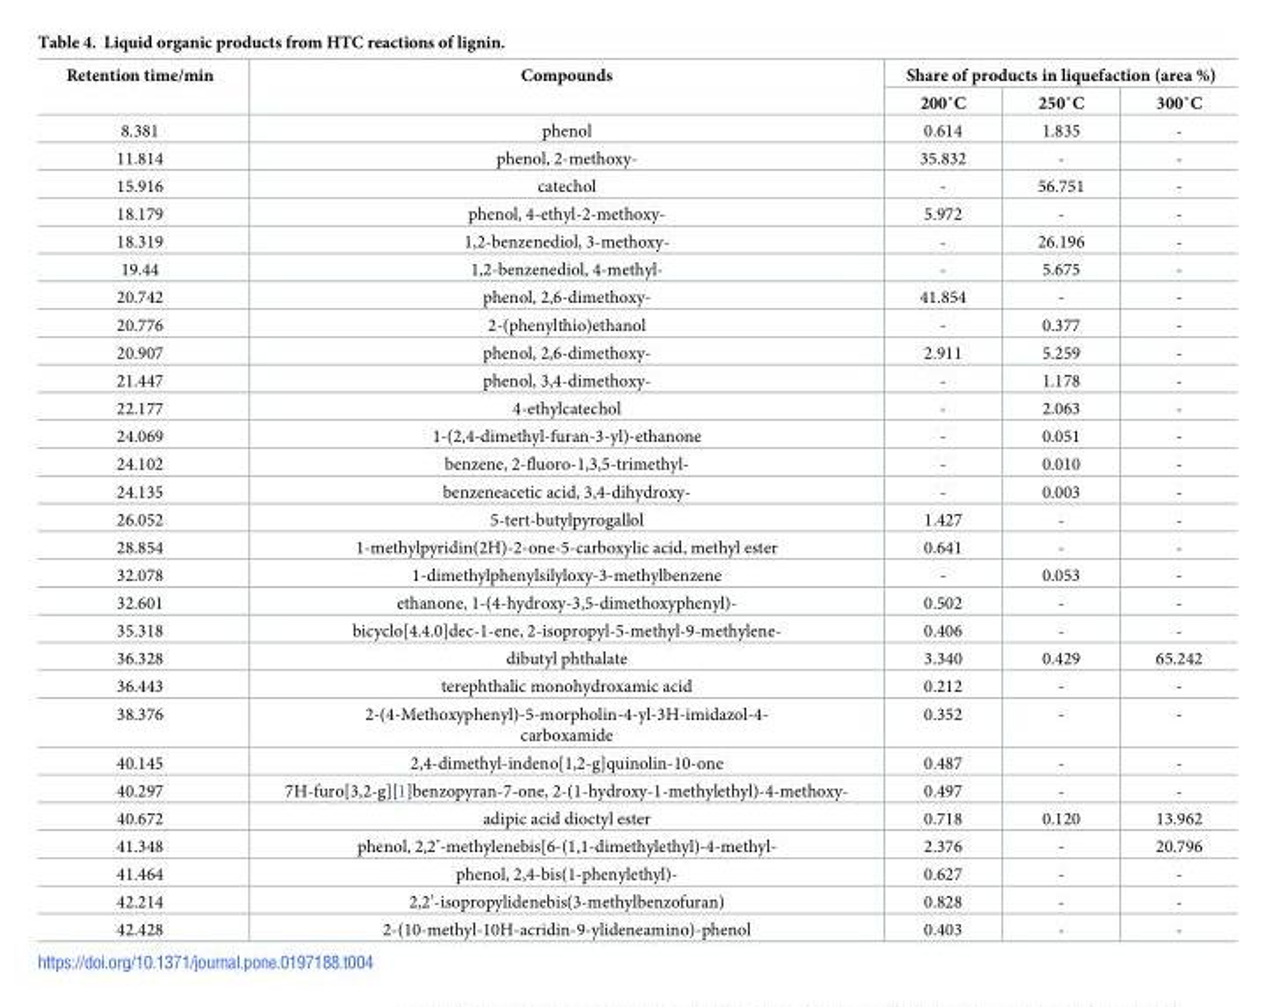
<table><thead><tr><td rowspan="2">Retention time/min</td><td rowspan="2">Compounds</td><td colspan="3">Share of products in liquefaction (area %)</td></tr><tr><td>200˚C</td><td>250˚C</td><td>300˚C</td></tr></thead><tbody><tr><td>8.381</td><td>phenol</td><td>0.614</td><td>1.835</td><td>-</td></tr><tr><td>11.814</td><td>phenol, 2-methoxy-</td><td>35.832</td><td>-</td><td>-</td></tr><tr><td>15.916</td><td>catechol</td><td>-</td><td>56.751</td><td>-</td></tr><tr><td>18.179</td><td>phenol, 4-ethyl-2-methoxy-</td><td>5.972</td><td>-</td><td>-</td></tr><tr><td>18.319</td><td>1,2-benzenediol, 3-methoxy-</td><td>-</td><td>26.196</td><td>-</td></tr><tr><td>19.44</td><td>1,2-benzenediol, 4-methyl-</td><td>-</td><td>5.675</td><td>-</td></tr><tr><td>20.742</td><td>phenol, 2,6-dimethoxy-</td><td>41.854</td><td>-</td><td>-</td></tr><tr><td>20.776</td><td>2-(phenylthio)ethanol</td><td>-</td><td>0.377</td><td>-</td></tr><tr><td>20.907</td><td>phenol, 2,6-dimethoxy-</td><td>2.911</td><td>5.259</td><td>-</td></tr><tr><td>21.447</td><td>phenol, 3,4-dimethoxy-</td><td>-</td><td>1.178</td><td>-</td></tr><tr><td>22.177</td><td>4-ethylcatechol</td><td>-</td><td>2.063</td><td>-</td></tr><tr><td>24.069</td><td>1-(2,4-dimethyl-furan-3-yl)-ethanone</td><td>-</td><td>0.051</td><td>-</td></tr><tr><td>24.102</td><td>benzene, 2-fluoro-1,3,5-trimethyl-</td><td>-</td><td>0.010</td><td>-</td></tr><tr><td>24.135</td><td>benzeneacetic acid, 3,4-dihydroxy-</td><td>-</td><td>0.003</td><td>-</td></tr><tr><td>26.052</td><td>5-tert-butylpyrogallol</td><td>1.427</td><td>-</td><td>-</td></tr><tr><td>28.854</td><td>1-methylpyridin(2H)-2-one-5-carboxylic acid, methyl ester</td><td>0.641</td><td>-</td><td>-</td></tr><tr><td>32.078</td><td>1-dimethylphenylsilyloxy-3-methylbenzene</td><td>-</td><td>0.053</td><td>-</td></tr><tr><td>32.601</td><td>ethanone, 1-(4-hydroxy-3,5-dimethoxyphenyl)-</td><td>0.502</td><td>-</td><td>-</td></tr><tr><td>35.318</td><td>bicyclo[4.4.0]dec-1-ene, 2-isopropyl-5-methyl-9-methylene-</td><td>0.406</td><td>-</td><td>-</td></tr><tr><td>36.328</td><td>dibutyl phthalate</td><td>3.340</td><td>0.429</td><td>65.242</td></tr><tr><td>36.443</td><td>terephthalic monohydroxamic acid</td><td>0.212</td><td>-</td><td>-</td></tr><tr><td>38.376</td><td>2-(4-Methoxyphenyl)-5-morpholin-4-yl-3H-imidazol-4- carboxamide</td><td>0.352</td><td>-</td><td>-</td></tr><tr><td>40.145</td><td>2,4-dimethyl-indeno[1,2-g]quinolin-10-one</td><td>0.487</td><td>-</td><td>-</td></tr><tr><td>40.297</td><td>7H-furo[3,2-g][1]benzopyran-7-one, 2-(1-hydroxy-1-methylethyl)-4-methoxy-</td><td>0.497</td><td>-</td><td>-</td></tr><tr><td>40.672</td><td>adipic acid dioctyl ester</td><td>0.718</td><td>0.120</td><td>13.962</td></tr><tr><td>41.348</td><td>phenol, 2,2’-methylenebis[6-(1,1-dimethylethyl)-4-methyl-</td><td>2.376</td><td>-</td><td>20.796</td></tr><tr><td>41.464</td><td>phenol, 2,4-bis(1-phenylethyl)-</td><td>0.627</td><td>-</td><td>-</td></tr><tr><td>42.214</td><td>2,2’-isopropylidenebis(3-methylbenzofuran)</td><td>0.828</td><td>-</td><td>-</td></tr><tr><td>42.428</td><td>2-(10-methyl-10H-acridin-9-ylideneamino)-phenol</td><td>0.403</td><td>-</td><td>-</td></tr></tbody></table>